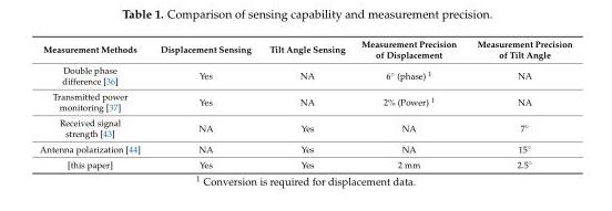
<table><thead><tr><td>Measurement Methods</td><td>Displacement Sensing</td><td>Tilt Angle Sensing</td><td>Measurement Precision of Displacement</td><td>Measurement Precision of Tilt Angle</td></tr></thead><tbody><tr><td>Double phase difference [36]</td><td>Yes</td><td>NA</td><td>6◦ (phase) 1</td><td>NA</td></tr><tr><td>Transmitted power monitoring [37]</td><td>Yes</td><td>NA</td><td>2% (Power) <sup>1</sup></td><td>NA</td></tr><tr><td>Received signal strength [43]</td><td>NA</td><td>Yes</td><td>NA</td><td>7◦</td></tr><tr><td>Antenna polarization [44]</td><td>NA</td><td>Yes</td><td>NA</td><td>15◦</td></tr><tr><td>[this paper]</td><td>Yes</td><td>Yes</td><td>2 mm</td><td>2.5◦</td></tr></tbody></table>